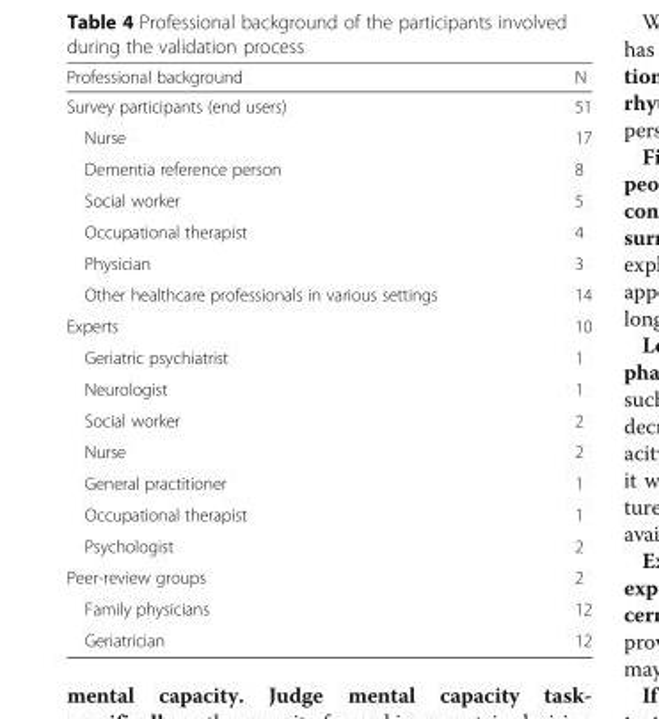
<table><thead><tr><td>Professional background</td><td>N</td></tr></thead><tbody><tr><td>Survey participants (end users)</td><td>51</td></tr><tr><td>Nurse</td><td>17</td></tr><tr><td>Dementia reference person</td><td>8</td></tr><tr><td>Social worker</td><td>5</td></tr><tr><td>Occupational therapist</td><td>4</td></tr><tr><td>Physician</td><td>3</td></tr><tr><td>Other healthcare professionals in various settings</td><td>14</td></tr><tr><td>Experts</td><td>10</td></tr><tr><td>Geriatric psychiatrist</td><td>1</td></tr><tr><td>Neurologist</td><td>1</td></tr><tr><td>Social worker</td><td>2</td></tr><tr><td>Nurse</td><td>2</td></tr><tr><td>General practitioner</td><td>1</td></tr><tr><td>Occupational therapist</td><td>1</td></tr><tr><td>Psychologist</td><td>2</td></tr><tr><td>Peer-review groups</td><td>2</td></tr><tr><td>Family physicians</td><td>12</td></tr><tr><td>Geriatrician</td><td>12</td></tr></tbody></table>